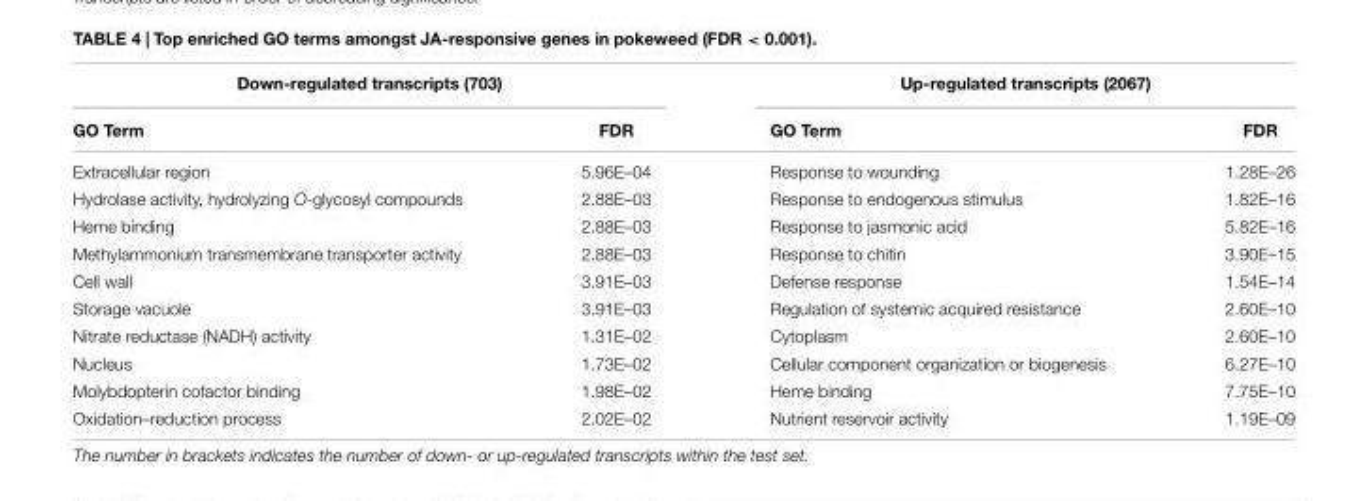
<table><thead><tr><td colspan="2">Down-regulated transcripts (703)</td><td colspan="2">Up-regulated transcripts (2067)</td></tr><tr><td>GO Term</td><td>FDR</td><td>GO Term</td><td>FDR</td></tr></thead><tbody><tr><td>Extracellular region</td><td>5.96E–04</td><td>Response to wounding</td><td>1.28E–26</td></tr><tr><td>Hydrolase activity, hydrolyzing O-glycosyl compounds</td><td>2.88E–03</td><td>Response to endogenous stimulus</td><td>1.82E–16</td></tr><tr><td>Heme binding</td><td>2.88E–03</td><td>Response to jasmonic acid</td><td>5.82E–16</td></tr><tr><td>Methylammonium transmembrane transporter activity</td><td>2.88E–03</td><td>Response to chitin</td><td>3.90E–15</td></tr><tr><td>Cell wall</td><td>3.91E–03</td><td>Defense response</td><td>1.54E–14</td></tr><tr><td>Storage vacuole</td><td>3.91E–03</td><td>Regulation of systemic acquired resistance</td><td>2.60E–10</td></tr><tr><td>Nitrate reductase (NADH) activity</td><td>1.31E–02</td><td>Cytoplasm</td><td>2.60E–10</td></tr><tr><td>Nucleus</td><td>1.73E–02</td><td>Cellular component organization or biogenesis</td><td>6.27E–10</td></tr><tr><td>Molybdopterin cofactor binding</td><td>1.98E–02</td><td>Heme binding</td><td>7.75E–10</td></tr><tr><td>Oxidation–reduction process</td><td>2.02E–02</td><td>Nutrient reservoir activity</td><td>1.19E–09</td></tr></tbody></table>